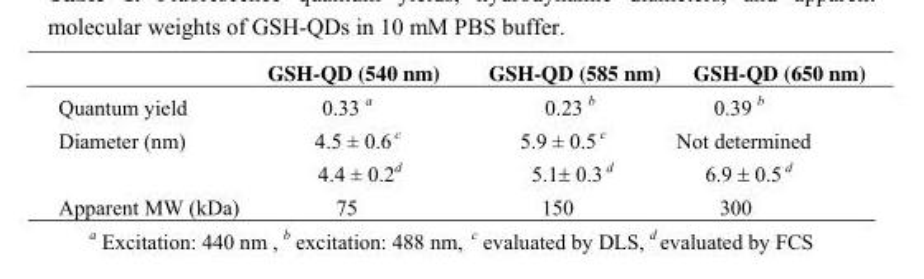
<table><thead><tr><td></td><td>GSH-QD (540 nm)</td><td>GSH-QD (585 nm)</td><td>GSH-QD (650 nm)</td></tr></thead><tbody><tr><td>Quantum yield</td><td>0.33 <sup>a</sup></td><td>0.23 <sup>b</sup></td><td>0.39 <sup>b</sup></td></tr><tr><td rowspan="2">Diameter (nm)</td><td>4.5 ± 0.6 <sup>c</sup></td><td>5.9 ± 0.5 <sup>c</sup></td><td>Not determined</td></tr><tr><td>4.4 ± 0.2<sup>d</sup></td><td>5.1± 0.3 <sup>d</sup></td><td>6.9 ± 0.5 <sup>d</sup></td></tr><tr><td>Apparent MW (kDa)</td><td>75</td><td>150</td><td>300</td></tr></tbody></table>